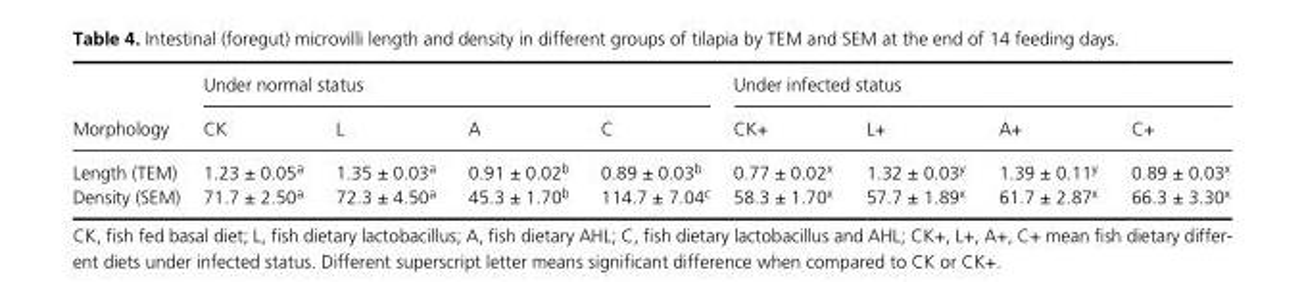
<table><thead><tr><td rowspan="2">Morphology</td><td colspan="4">Under normal status</td><td colspan="4">Under infected status</td></tr><tr><td>CK</td><td>L</td><td>A</td><td>C</td><td>CK+</td><td>L+</td><td>A+</td><td>C+</td></tr></thead><tbody><tr><td>Length (TEM)</td><td>1.23 ± 0.05<sup>a</sup></td><td>1.35 ± 0.03<sup>a</sup></td><td>0.91 ± 0.02<sup>b</sup></td><td>0.89 ± 0.03<sup>b</sup></td><td>0.77 ± 0.02<sup>x</sup></td><td>1.32 ± 0.03<sup>y</sup></td><td>1.39 ± 0.11<sup>y</sup></td><td>0.89 ± 0.03<sup>x</sup></td></tr><tr><td>Density (SEM)</td><td>71.7 ± 2.50<sup>a</sup></td><td>72.3 ± 4.50<sup>a</sup></td><td>45.3 ± 1.70<sup>b</sup></td><td>114.7 ± 7.04<sup>c</sup></td><td>58.3 ± 1.70<sup>x</sup></td><td>57.7 ± 1.89<sup>x</sup></td><td>61.7 ± 2.87<sup>x</sup></td><td>66.3 ± 3.30<sup>x</sup></td></tr></tbody></table>